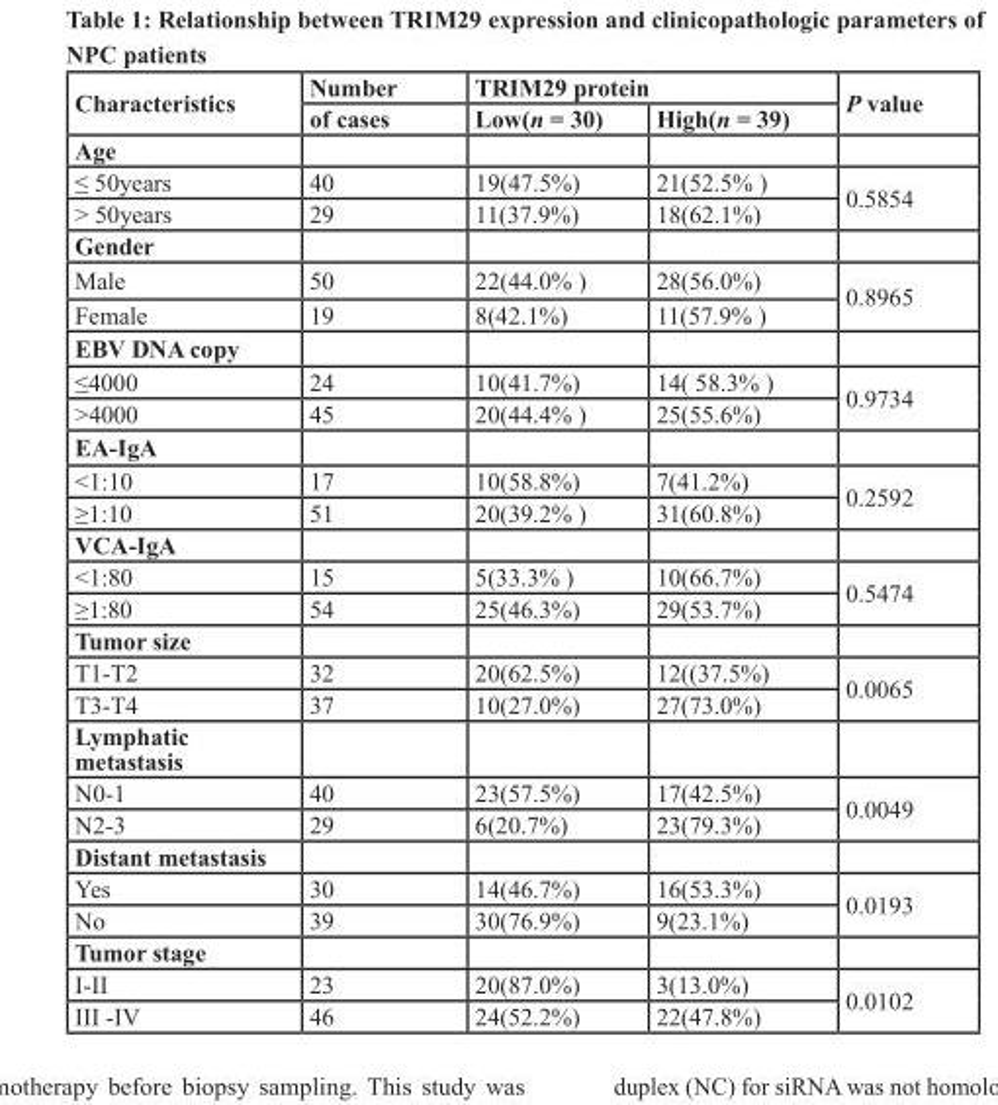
<table><thead><tr><td rowspan="2">Characteristics</td><td rowspan="2">Number of cases</td><td colspan="2">TRIM29 protein</td><td rowspan="2">P value</td></tr><tr><td>Low(n = 30)</td><td>High(n = 39)</td></tr></thead><tbody><tr><td colspan="5">Age</td></tr><tr><td>≤ 50years</td><td>40</td><td>19(47.5%)</td><td>21(52.5% )</td><td rowspan="2">0.5854</td></tr><tr><td>&gt; 50years</td><td>29</td><td>11(37.9%)</td><td>18(62.1%)</td></tr><tr><td colspan="5">Gender</td></tr><tr><td>Male</td><td>50</td><td>22(44.0% )</td><td>28(56.0%)</td><td rowspan="2">0.8965</td></tr><tr><td>Female</td><td>19</td><td>8(42.1%)</td><td>11(57.9% )</td></tr><tr><td colspan="5">EBV DNA copy</td></tr><tr><td>≤4000</td><td>24</td><td>10(41.7%)</td><td>14( 58.3% )</td><td rowspan="2">0.9734</td></tr><tr><td>&gt;4000</td><td>45</td><td>20(44.4% )</td><td>25(55.6%)</td></tr><tr><td colspan="5">EA-IgA</td></tr><tr><td>&lt;1:10</td><td>17</td><td>10(58.8%)</td><td>7(41.2%)</td><td rowspan="2">0.2592</td></tr><tr><td>≥1:10</td><td>51</td><td>20(39.2% )</td><td>31(60.8%)</td></tr><tr><td colspan="5">VCA-IgA</td></tr><tr><td>&lt;1:80</td><td>15</td><td>5(33.3% )</td><td>10(66.7%)</td><td rowspan="2">0.5474</td></tr><tr><td>≥1:80</td><td>54</td><td>25(46.3%)</td><td>29(53.7%)</td></tr><tr><td colspan="5">Tumor size</td></tr><tr><td>T1-T2</td><td>32</td><td>20(62.5%)</td><td>12((37.5%)</td><td rowspan="2">0.0065</td></tr><tr><td>T3-T4</td><td>37</td><td>10(27.0%)</td><td>27(73.0%)</td></tr><tr><td colspan="5">Lymphatic metastasis</td></tr><tr><td>N0-1</td><td>40</td><td>23(57.5%)</td><td>17(42.5%)</td><td rowspan="2">0.0049</td></tr><tr><td>N2-3</td><td>29</td><td>6(20.7%)</td><td>23(79.3%)</td></tr><tr><td colspan="5">Distant metastasis</td></tr><tr><td>Yes</td><td>30</td><td>14(46.7%)</td><td>16(53.3%)</td><td rowspan="2">0.0193</td></tr><tr><td>No</td><td>39</td><td>30(76.9%)</td><td>9(23.1%)</td></tr><tr><td colspan="5">Tumor stage</td></tr><tr><td>I-II</td><td>23</td><td>20(87.0%)</td><td>3(13.0%)</td><td rowspan="2">0.0102</td></tr><tr><td>III -IV</td><td>46</td><td>24(52.2%)</td><td>22(47.8%)</td></tr></tbody></table>